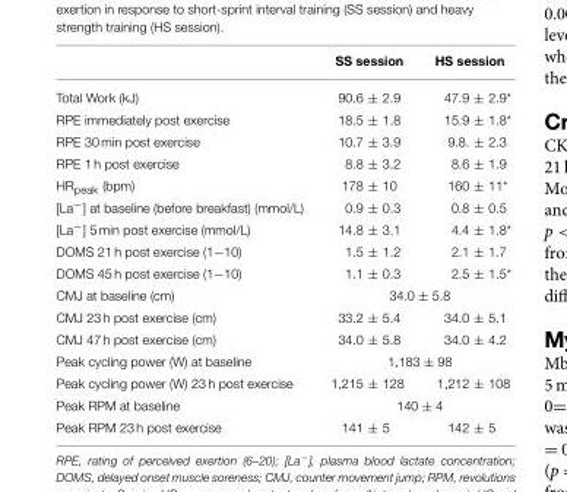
<table><thead><tr><td></td><td>SS session</td><td>HS session</td></tr></thead><tbody><tr><td>Total Work (kJ)</td><td>90.6 ± 2.9</td><td>47.9 ± 2.9*</td></tr><tr><td>RPE immediately post exercise</td><td>18.5 ± 1.8</td><td>15.9 ± 1.8*</td></tr><tr><td>RPE 30 min post exercise</td><td>10.7 ± 3.9</td><td>9.8. ± 2.3</td></tr><tr><td>RPE 1 h post exercise</td><td>8.8 ± 3.2</td><td>8.6 ± 1.9</td></tr><tr><td>HR<sub>peak</sub> (bpm)</td><td>178 ± 10</td><td>160 ± 11*</td></tr><tr><td>[La<sup>−</sup>] at baseline (before breakfast) (mmol/L)</td><td>0.9 ± 0.3</td><td>0.8 ± 0.5</td></tr><tr><td>[La<sup>−</sup>] 5 min post exercise (mmol/L)</td><td>14.8 ± 3.1</td><td>4.4 ± 1.8*</td></tr><tr><td>DOMS 21 h post exercise (1−10)</td><td>1.5 ± 1.2</td><td>2.1 ± 1.7</td></tr><tr><td>DOMS 45 h post exercise (1−10)</td><td>1.1 ± 0.3</td><td>2.5 ± 1.5*</td></tr><tr><td>CMJ at baseline (cm)</td><td colspan="2">34.0 ± 5.8</td></tr><tr><td>CMJ 23 h post exercise (cm)</td><td>33.2 ± 5.4</td><td>34.0 ± 5.1</td></tr><tr><td>CMJ 47 h post exercise (cm)</td><td>34.0 ± 5.8</td><td>34.0 ± 4.2</td></tr><tr><td>Peak cycling power (W) at baseline</td><td colspan="2">1,183 ± 98</td></tr><tr><td>Peak cycling power (W) 23 h post exercise</td><td>1,215 ± 128</td><td>1,212 ± 108</td></tr><tr><td>Peak RPM at baseline</td><td colspan="2">140 ± 4</td></tr><tr><td>Peak RPM 23 h post exercise</td><td>141 ± 5</td><td>142 ± 5</td></tr></tbody></table>